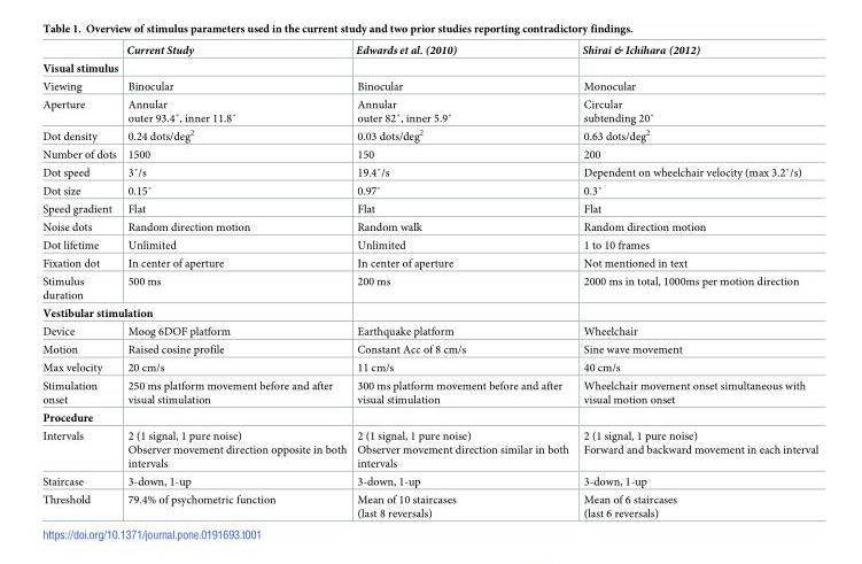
<table><thead><tr><td></td><td>Current Study</td><td>Edwards et al. (2010)</td><td>Shirai &amp; Ichihara (2012)</td></tr></thead><tbody><tr><td colspan="4">Visual stimulus</td></tr><tr><td>Viewing</td><td>Binocular</td><td>Binocular</td><td>Monocular</td></tr><tr><td>Aperture</td><td>Annular outer 93.4˚, inner 11.8˚</td><td>Annular outer 82˚, inner 5.9˚</td><td>Circular subtending 20˚</td></tr><tr><td>Dot density</td><td>0.24 dots/deg<sup>2</sup></td><td>0.03 dots/deg<sup>2</sup></td><td>0.63 dots/deg<sup>2</sup></td></tr><tr><td>Number of dots</td><td>1500</td><td>150</td><td>200</td></tr><tr><td>Dot speed</td><td>3˚/s</td><td>19.4˚/s</td><td>Dependent on wheelchair velocity (max 3.2˚/s)</td></tr><tr><td>Dot size</td><td>0.15˚</td><td>0.97˚</td><td>0.3˚</td></tr><tr><td>Speed gradient</td><td>Flat</td><td>Flat</td><td>Flat</td></tr><tr><td>Noise dots</td><td>Random direction motion</td><td>Random walk</td><td>Random direction motion</td></tr><tr><td>Dot lifetime</td><td>Unlimited</td><td>Unlimited</td><td>1 to 10 frames</td></tr><tr><td>Fixation dot</td><td>In center of aperture</td><td>In center of aperture</td><td>Not mentioned in text</td></tr><tr><td>Stimulus duration</td><td>500 ms</td><td>200 ms</td><td>2000 ms in total, 1000ms per motion direction</td></tr><tr><td colspan="4">Vestibular stimulation</td></tr><tr><td>Device</td><td>Moog 6DOF platform</td><td>Earthquake platform</td><td>Wheelchair</td></tr><tr><td>Motion</td><td>Raised cosine profile</td><td>Constant Acc of 8 cm/s</td><td>Sine wave movement</td></tr><tr><td>Max velocity</td><td>20 cm/s</td><td>11 cm/s</td><td>40 cm/s</td></tr><tr><td>Stimulation onset</td><td>250 ms platform movement before and after visual stimulation</td><td>300 ms platform movement before and after visual stimulation</td><td>Wheelchair movement onset simultaneous with visual motion onset</td></tr><tr><td colspan="4">Procedure</td></tr><tr><td>Intervals</td><td>2 (1 signal, 1 pure noise) Observer movement direction opposite in both intervals</td><td>2 (1 signal, 1 pure noise) Observer movement direction similar in both intervals</td><td>2 (1 signal, 1 pure noise) Forward and backward movement in each interval</td></tr><tr><td>Staircase</td><td>3-down, 1-up</td><td>3-down, 1-up</td><td>3-down, 1-up</td></tr><tr><td>Threshold</td><td>79.4% of psychometric function</td><td>Mean of 10 staircases (last 8 reversals)</td><td>Mean of 6 staircases (last 6 reversals)</td></tr></tbody></table>